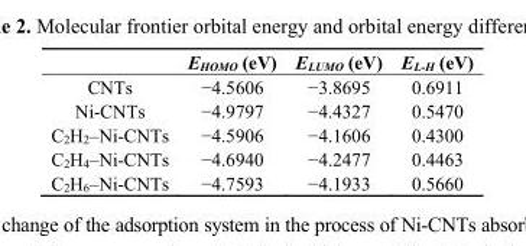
<table><thead><tr><td></td><td>E<sub>HOMO</sub> (eV)</td><td>E<sub>LUMO</sub> (eV)</td><td>E<sub>L-H</sub> (eV)</td></tr></thead><tbody><tr><td>CNTs</td><td>−4.5606</td><td>−3.8695</td><td>0.6911</td></tr><tr><td>Ni-CNTs</td><td>−4.9797</td><td>−4.4327</td><td>0.5470</td></tr><tr><td>C<sub>2</sub>H<sub>2</sub>–Ni-CNTs</td><td>−4.5906</td><td>−4.1606</td><td>0.4300</td></tr><tr><td>C<sub>2</sub>H<sub>4</sub>–Ni-CNTs</td><td>−4.6940</td><td>−4.2477</td><td>0.4463</td></tr><tr><td>C<sub>2</sub>H<sub>6</sub>–Ni-CNTs</td><td>−4.7593</td><td>−4.1933</td><td>0.5660</td></tr></tbody></table>